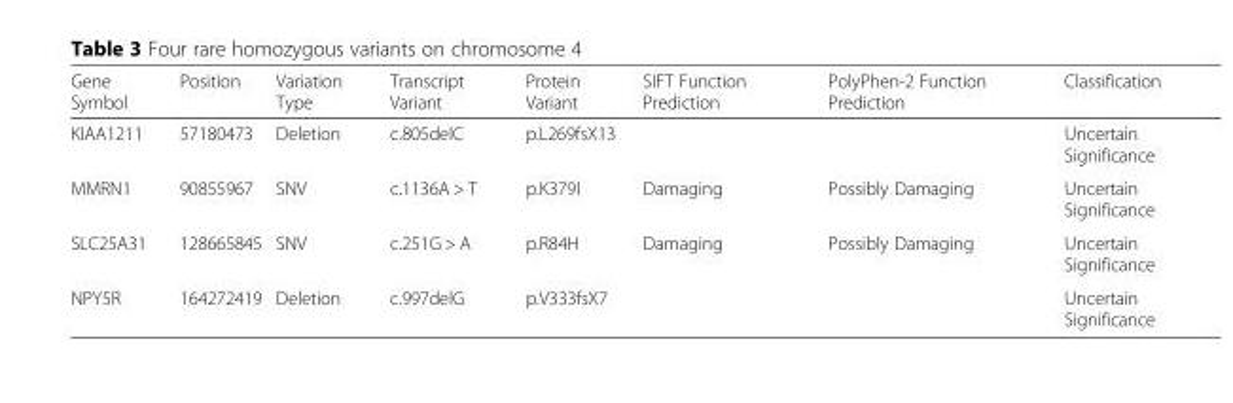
<table><thead><tr><td>Gene Symbol</td><td>Position</td><td>Variation Type</td><td>Transcript Variant</td><td>Protein Variant</td><td>SIFT Function Prediction</td><td>PolyPhen-2 Function Prediction</td><td>Classification</td></tr></thead><tbody><tr><td>KIAA1211</td><td>57180473</td><td>Deletion</td><td>c.805delC</td><td>p.L269fsX13</td><td></td><td></td><td>Uncertain Significance</td></tr><tr><td>MMRN1</td><td>90855967</td><td>SNV</td><td>c.1136A &gt; T</td><td>p.K379I</td><td>Damaging</td><td>Possibly Damaging</td><td>Uncertain Significance</td></tr><tr><td>SLC25A31</td><td>128665845</td><td>SNV</td><td>c.251G &gt; A</td><td>p.R84H</td><td>Damaging</td><td>Possibly Damaging</td><td>Uncertain Significance</td></tr><tr><td>NPY5R</td><td>164272419</td><td>Deletion</td><td>c.997delG</td><td>p.V333fsX7</td><td></td><td></td><td>Uncertain Significance</td></tr></tbody></table>